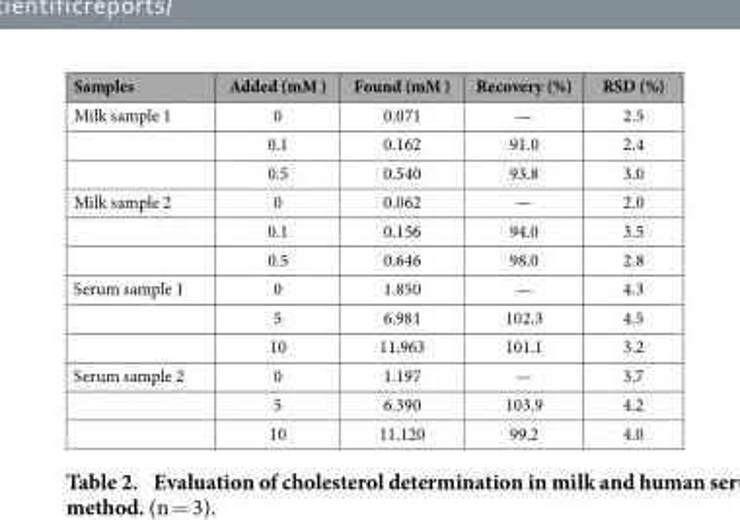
<table><thead><tr><td>Samples</td><td>Added (mM )</td><td>Found (mM )</td><td>Recovery (%)</td><td>RSD (%)</td></tr></thead><tbody><tr><td rowspan="3">Milk sample 1</td><td>0</td><td>0.071</td><td>—</td><td>2.5</td></tr><tr><td>0.1</td><td>0.162</td><td>91.0</td><td>2.4</td></tr><tr><td>0.5</td><td>0.540</td><td>93.8</td><td>3.0</td></tr><tr><td rowspan="3">Milk sample 2</td><td>0</td><td>0.062</td><td>—</td><td>2.0</td></tr><tr><td>0.1</td><td>0.156</td><td>94.0</td><td>3.5</td></tr><tr><td>0.5</td><td>0.646</td><td>98.0</td><td>2.8</td></tr><tr><td rowspan="3">Serum sample 1</td><td>0</td><td>1.850</td><td>—</td><td>4.3</td></tr><tr><td>5</td><td>6.981</td><td>102.3</td><td>4.5</td></tr><tr><td>10</td><td>11.963</td><td>101.1</td><td>3.2</td></tr><tr><td rowspan="3">Serum sample 2</td><td>0</td><td>1.197</td><td>—</td><td>3.7</td></tr><tr><td>5</td><td>6.390</td><td>103.9</td><td>4.2</td></tr><tr><td>10</td><td>11.120</td><td>99.2</td><td>4.0</td></tr></tbody></table>